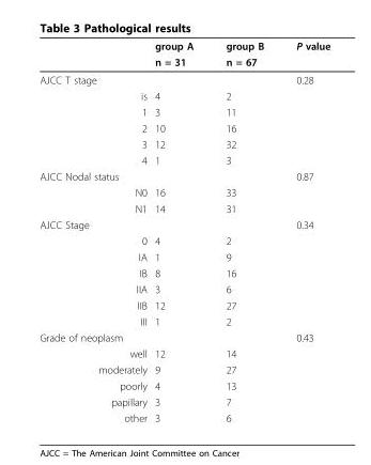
<table><thead><tr><td rowspan="2"></td><td rowspan="2">group A n = 31</td><td rowspan="2">group B n = 67</td><td rowspan="2">P value</td></tr><tr></tr></thead><tbody><tr><td>AJCC T stage</td><td></td><td></td><td>0.28</td></tr><tr><td>is</td><td>4</td><td>2</td><td></td></tr><tr><td>1</td><td>3</td><td>11</td><td></td></tr><tr><td>2</td><td>10</td><td>16</td><td></td></tr><tr><td>3</td><td>12</td><td>32</td><td></td></tr><tr><td>4</td><td>1</td><td>3</td><td></td></tr><tr><td>AJCC Nodal status</td><td></td><td></td><td>0.87</td></tr><tr><td>N0</td><td>16</td><td>33</td><td></td></tr><tr><td>N1</td><td>14</td><td>31</td><td></td></tr><tr><td>AJCC Stage</td><td></td><td></td><td>0.34</td></tr><tr><td>0</td><td>4</td><td>2</td><td></td></tr><tr><td>IA</td><td>1</td><td>9</td><td></td></tr><tr><td>IB</td><td>8</td><td>16</td><td></td></tr><tr><td>IIA</td><td>3</td><td>6</td><td></td></tr><tr><td>IIB</td><td>12</td><td>27</td><td></td></tr><tr><td>III</td><td>1</td><td>2</td><td></td></tr><tr><td>Grade of neoplasm</td><td></td><td></td><td>0.43</td></tr><tr><td>well</td><td>12</td><td>14</td><td></td></tr><tr><td>moderately</td><td>9</td><td>27</td><td></td></tr><tr><td>poorly</td><td>4</td><td>13</td><td></td></tr><tr><td>papillary</td><td>3</td><td>7</td><td></td></tr><tr><td>other</td><td>3</td><td>6</td><td></td></tr></tbody></table>